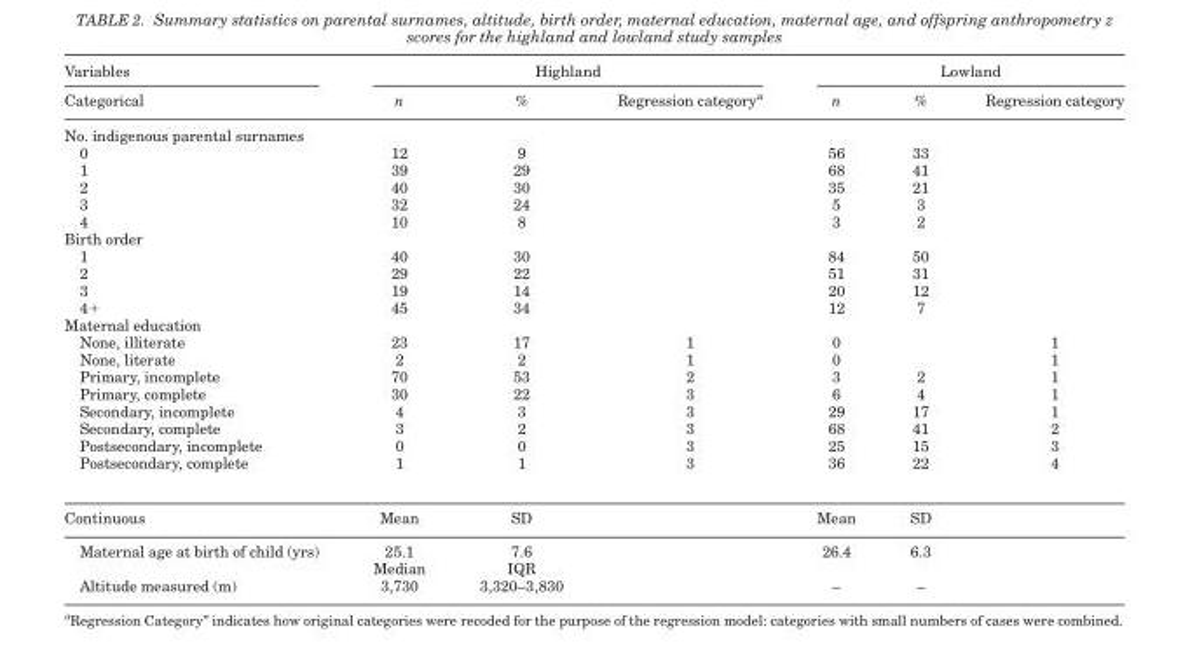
<table><thead><tr><td rowspan="2">Variables Categorical</td><td colspan="3">Highland</td><td colspan="3">Lowland</td></tr><tr><td>n</td><td>%</td><td>Regression category<sup>a</sup></td><td>n</td><td>%</td><td>Regression category</td></tr></thead><tbody><tr><td colspan="7">No. indigenous parental surnames</td></tr><tr><td>0</td><td>12</td><td>9</td><td rowspan="5"></td><td>56</td><td>33</td><td rowspan="5"></td></tr><tr><td>1</td><td>39</td><td>29</td><td>68</td><td>41</td></tr><tr><td>2</td><td>40</td><td>30</td><td>35</td><td>21</td></tr><tr><td>3</td><td>32</td><td>24</td><td>5</td><td>3</td></tr><tr><td>4</td><td>10</td><td>8</td><td>3</td><td>2</td></tr><tr><td colspan="7">Birth order</td></tr><tr><td>1</td><td>40</td><td>30</td><td></td><td>84</td><td>50</td><td></td></tr><tr><td>2</td><td>29</td><td>22</td><td></td><td>51</td><td>31</td><td></td></tr><tr><td>3</td><td>19</td><td>14</td><td></td><td>20</td><td>12</td><td></td></tr><tr><td>4+</td><td>45</td><td>34</td><td></td><td>12</td><td>7</td><td></td></tr><tr><td colspan="7">Maternal education</td></tr><tr><td>None, illiterate</td><td>23</td><td>17</td><td>1</td><td>0</td><td></td><td>1</td></tr><tr><td>None, literate</td><td>2</td><td>2</td><td>1</td><td>0</td><td></td><td>1</td></tr><tr><td>Primary, incomplete</td><td>70</td><td>53</td><td>2</td><td>3</td><td>2</td><td>1</td></tr><tr><td>Primary, complete</td><td>30</td><td>22</td><td>3</td><td>6</td><td>4</td><td>1</td></tr><tr><td>Secondary, incomplete</td><td>4</td><td>3</td><td>3</td><td>29</td><td>17</td><td>1</td></tr><tr><td>Secondary, complete</td><td>3</td><td>2</td><td>3</td><td>68</td><td>41</td><td>2</td></tr><tr><td>Postsecondary, incomplete</td><td>0</td><td>0</td><td>3</td><td>25</td><td>15</td><td>3</td></tr><tr><td>Postsecondary, complete</td><td>1</td><td>1</td><td>3</td><td>36</td><td>22</td><td>4</td></tr><tr><td>Continuous</td><td>Mean</td><td>SD</td><td></td><td>Mean</td><td>SD</td><td></td></tr><tr><td rowspan="2">Maternal age at birth of child (yrs)</td><td>25.1</td><td>7.6</td><td></td><td>26.4</td><td>6.3</td><td></td></tr><tr><td>Median</td><td>IQR</td><td></td><td></td><td></td><td></td></tr><tr><td>Altitude measured (m)</td><td>3,730</td><td>3,320–3,830</td><td></td><td>–</td><td>–</td><td></td></tr></tbody></table>